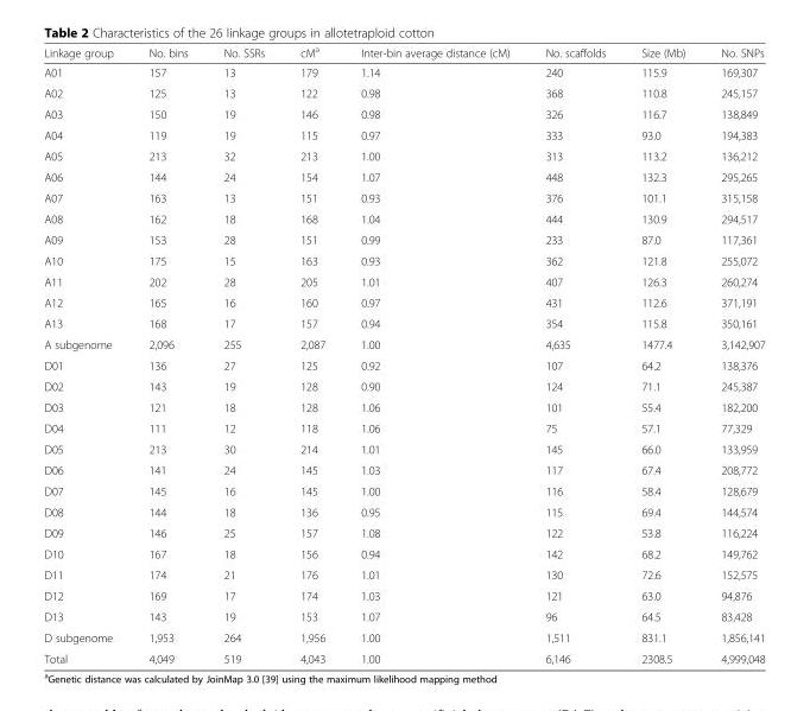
<table><thead><tr><td>Linkage group</td><td>No. bins</td><td>No. SSRs</td><td>cM<sup>a</sup></td><td>Inter-bin average distance (cM)</td><td>No. scaffolds</td><td>Size (Mb)</td><td>No. SNPs</td></tr></thead><tbody><tr><td>A01</td><td>157</td><td>13</td><td>179</td><td>1.14</td><td>240</td><td>115.9</td><td>169,307</td></tr><tr><td>A02</td><td>125</td><td>13</td><td>122</td><td>0.98</td><td>368</td><td>110.8</td><td>245,157</td></tr><tr><td>A03</td><td>150</td><td>19</td><td>146</td><td>0.98</td><td>326</td><td>116.7</td><td>138,849</td></tr><tr><td>A04</td><td>119</td><td>19</td><td>115</td><td>0.97</td><td>333</td><td>93.0</td><td>194,383</td></tr><tr><td>A05</td><td>213</td><td>32</td><td>213</td><td>1.00</td><td>313</td><td>113.2</td><td>136,212</td></tr><tr><td>A06</td><td>144</td><td>24</td><td>154</td><td>1.07</td><td>448</td><td>132.3</td><td>295,265</td></tr><tr><td>A07</td><td>163</td><td>13</td><td>151</td><td>0.93</td><td>376</td><td>101.1</td><td>315,158</td></tr><tr><td>A08</td><td>162</td><td>18</td><td>168</td><td>1.04</td><td>444</td><td>130.9</td><td>294,517</td></tr><tr><td>A09</td><td>153</td><td>28</td><td>151</td><td>0.99</td><td>233</td><td>87.0</td><td>117,361</td></tr><tr><td>A10</td><td>175</td><td>15</td><td>163</td><td>0.93</td><td>362</td><td>121.8</td><td>255,072</td></tr><tr><td>A11</td><td>202</td><td>28</td><td>205</td><td>1.01</td><td>407</td><td>126.3</td><td>260,274</td></tr><tr><td>A12</td><td>165</td><td>16</td><td>160</td><td>0.97</td><td>431</td><td>112.6</td><td>371,191</td></tr><tr><td>A13</td><td>168</td><td>17</td><td>157</td><td>0.94</td><td>354</td><td>115.8</td><td>350,161</td></tr><tr><td>A subgenome</td><td>2,096</td><td>255</td><td>2,087</td><td>1.00</td><td>4,635</td><td>1477.4</td><td>3,142,907</td></tr><tr><td>D01</td><td>136</td><td>27</td><td>125</td><td>0.92</td><td>107</td><td>64.2</td><td>138,376</td></tr><tr><td>D02</td><td>143</td><td>19</td><td>128</td><td>0.90</td><td>124</td><td>71.1</td><td>245,387</td></tr><tr><td>D03</td><td>121</td><td>18</td><td>128</td><td>1.06</td><td>101</td><td>55.4</td><td>182,200</td></tr><tr><td>D04</td><td>111</td><td>12</td><td>118</td><td>1.06</td><td>75</td><td>57.1</td><td>77,329</td></tr><tr><td>D05</td><td>213</td><td>30</td><td>214</td><td>1.01</td><td>145</td><td>66.0</td><td>133,959</td></tr><tr><td>D06</td><td>141</td><td>24</td><td>145</td><td>1.03</td><td>117</td><td>67.4</td><td>208,772</td></tr><tr><td>D07</td><td>145</td><td>16</td><td>145</td><td>1.00</td><td>116</td><td>58.4</td><td>128,679</td></tr><tr><td>D08</td><td>144</td><td>18</td><td>136</td><td>0.95</td><td>115</td><td>69.4</td><td>144,574</td></tr><tr><td>D09</td><td>146</td><td>25</td><td>157</td><td>1.08</td><td>122</td><td>53.8</td><td>116,224</td></tr><tr><td>D10</td><td>167</td><td>18</td><td>156</td><td>0.94</td><td>142</td><td>68.2</td><td>149,762</td></tr><tr><td>D11</td><td>174</td><td>21</td><td>176</td><td>1.01</td><td>130</td><td>72.6</td><td>152,575</td></tr><tr><td>D12</td><td>169</td><td>17</td><td>174</td><td>1.03</td><td>121</td><td>63.0</td><td>94,876</td></tr><tr><td>D13</td><td>143</td><td>19</td><td>153</td><td>1.07</td><td>96</td><td>64.5</td><td>83,428</td></tr><tr><td>D subgenome</td><td>1,953</td><td>264</td><td>1,956</td><td>1.00</td><td>1,511</td><td>831.1</td><td>1,856,141</td></tr><tr><td>Total</td><td>4,049</td><td>519</td><td>4,043</td><td>1.00</td><td>6,146</td><td>2308.5</td><td>4,999,048</td></tr></tbody></table>